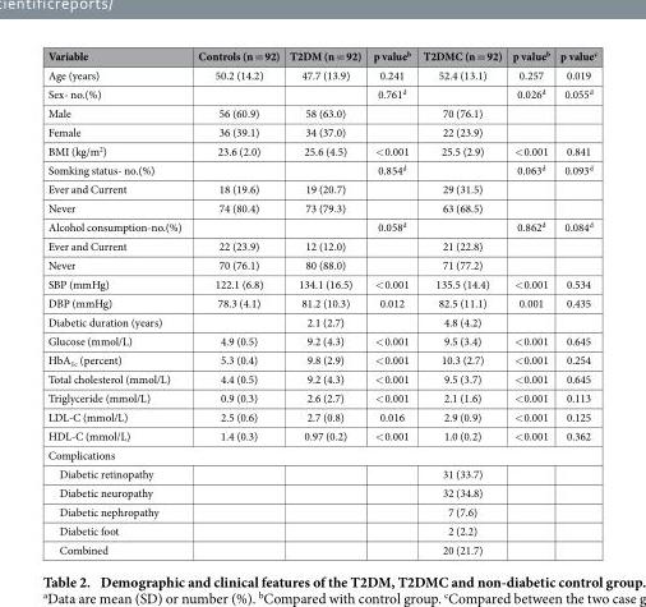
<table><thead><tr><td>Variable</td><td>Controls (n = 92)</td><td>T2DM (n = 92)</td><td>p value<sup>b</sup></td><td>T2DMC (n = 92)</td><td>p value<sup>b</sup></td><td>p value<sup>c</sup></td></tr></thead><tbody><tr><td>Age (years)</td><td>50.2 (14.2)</td><td>47.7 (13.9)</td><td>0.241</td><td>52.4 (13.1)</td><td>0.257</td><td>0.019</td></tr><tr><td>Sex- no.(%)</td><td></td><td></td><td>0.761<sup>d</sup></td><td></td><td>0.026<sup>d</sup></td><td>0.055<sup>d</sup></td></tr><tr><td>Male</td><td>56 (60.9)</td><td>58 (63.0)</td><td></td><td>70 (76.1)</td><td></td><td></td></tr><tr><td>Female</td><td>36 (39.1)</td><td>34 (37.0)</td><td></td><td>22 (23.9)</td><td></td><td></td></tr><tr><td>BMI (kg/m<sup>2</sup>)</td><td>23.6 (2.0)</td><td>25.6 (4.5)</td><td>&lt; 0.001</td><td>25.5 (2.9)</td><td>&lt; 0.001</td><td>0.841</td></tr><tr><td>Somking status- no.(%)</td><td></td><td></td><td>0.854<sup>d</sup></td><td></td><td>0.063<sup>d</sup></td><td>0.093<sup>d</sup></td></tr><tr><td>Ever and Current</td><td>18 (19.6)</td><td>19 (20.7)</td><td></td><td>29 (31.5)</td><td></td><td></td></tr><tr><td>Never</td><td>74 (80.4)</td><td>73 (79.3)</td><td></td><td>63 (68.5)</td><td></td><td></td></tr><tr><td>Alcohol consumption-no.(%)</td><td></td><td></td><td>0.058<sup>d</sup></td><td></td><td>0.862<sup>d</sup></td><td>0.084<sup>d</sup></td></tr><tr><td>Ever and Current</td><td>22 (23.9)</td><td>12 (12.0)</td><td></td><td>21 (22.8)</td><td></td><td></td></tr><tr><td>Never</td><td>70 (76.1)</td><td>80 (88.0)</td><td></td><td>71 (77.2)</td><td></td><td></td></tr><tr><td>SBP (mmHg)</td><td>122.1 (6.8)</td><td>134.1 (16.5)</td><td>&lt; 0.001</td><td>135.5 (14.4)</td><td>&lt; 0.001</td><td>0.534</td></tr><tr><td>DBP (mmHg)</td><td>78.3 (4.1)</td><td>81.2 (10.3)</td><td>0.012</td><td>82.5 (11.1)</td><td>0.001</td><td>0.435</td></tr><tr><td>Diabetic duration (years)</td><td></td><td>2.1 (2.7)</td><td></td><td>4.8 (4.2)</td><td></td><td></td></tr><tr><td>Glucose (mmol/L)</td><td>4.9 (0.5)</td><td>9.2 (4.3)</td><td>&lt; 0.001</td><td>9.5 (3.4)</td><td>&lt; 0.001</td><td>0.645</td></tr><tr><td>HbA<sub>1c</sub> (percent)</td><td>5.3 (0.4)</td><td>9.8 (2.9)</td><td>&lt; 0.001</td><td>10.3 (2.7)</td><td>&lt; 0.001</td><td>0.254</td></tr><tr><td>Total cholesterol (mmol/L)</td><td>4.4 (0.5)</td><td>9.2 (4.3)</td><td>&lt; 0.001</td><td>9.5 (3.7)</td><td>&lt; 0.001</td><td>0.645</td></tr><tr><td>Triglyceride (mmol/L)</td><td>0.9 (0.3)</td><td>2.6 (2.7)</td><td>&lt; 0.001</td><td>2.1 (1.6)</td><td>&lt; 0.001</td><td>0.113</td></tr><tr><td>LDL-C (mmol/L)</td><td>2.5 (0.6)</td><td>2.7 (0.8)</td><td>0.016</td><td>2.9 (0.9)</td><td>&lt; 0.001</td><td>0.125</td></tr><tr><td>HDL-C (mmol/L)</td><td>1.4 (0.3)</td><td>0.97 (0.2)</td><td>&lt; 0.001</td><td>1.0 (0.2)</td><td>&lt; 0.001</td><td>0.362</td></tr><tr><td colspan="7">Complications</td></tr><tr><td>Diabetic retinopathy</td><td></td><td></td><td></td><td>31 (33.7)</td><td></td><td></td></tr><tr><td>Diabetic neuropathy</td><td></td><td></td><td></td><td>32 (34.8)</td><td></td><td></td></tr><tr><td>Diabetic nephropathy</td><td></td><td></td><td></td><td>7 (7.6)</td><td></td><td></td></tr><tr><td>Diabetic foot</td><td></td><td></td><td></td><td>2 (2.2)</td><td></td><td></td></tr><tr><td>Combined</td><td></td><td></td><td></td><td>20 (21.7)</td><td></td><td></td></tr></tbody></table>